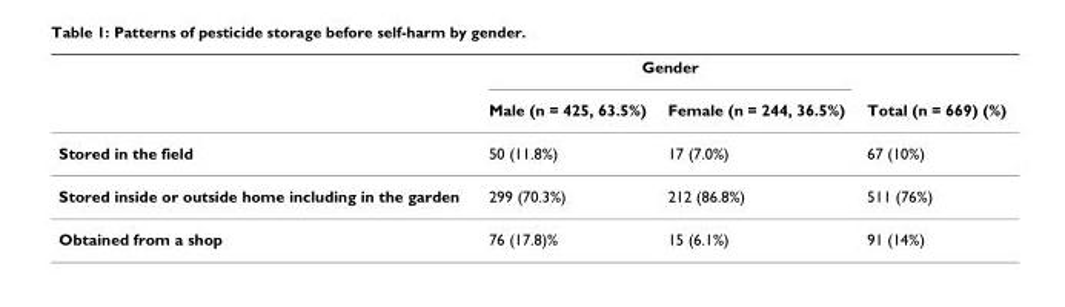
<table><thead><tr><td rowspan="2"></td><td colspan="2">Gender</td><td rowspan="2">Total (n = 669) (%)</td></tr><tr><td>Male (n = 425, 63.5%)</td><td>Female (n = 244, 36.5%)</td></tr></thead><tbody><tr><td>Stored in the field</td><td>50 (11.8%)</td><td>17 (7.0%)</td><td>67 (10%)</td></tr><tr><td>Stored inside or outside home including in the garden</td><td>299 (70.3%)</td><td>212 (86.8%)</td><td>511 (76%)</td></tr><tr><td>Obtained from a shop</td><td>76 (17.8)%</td><td>15 (6.1%)</td><td>91 (14%)</td></tr></tbody></table>